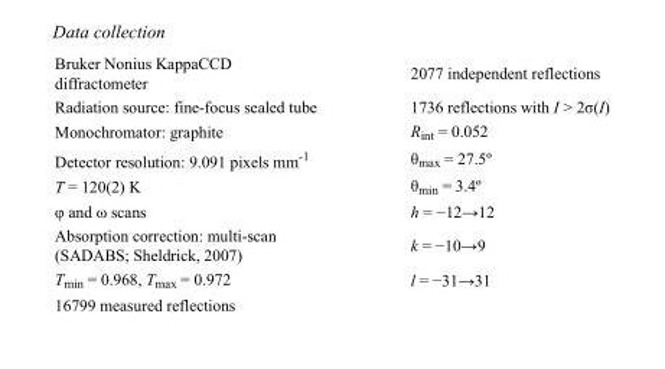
<table><tbody><tr><td>Bruker Nonius KappaCCD diffractometer</td><td>2077 independent reflections</td></tr><tr><td>Radiation source: fine-focus sealed tube</td><td>1736 reflections with I &gt; 2σ(I)</td></tr><tr><td>Monochromator: graphite</td><td>R<sub>int</sub> = 0.052</td></tr><tr><td>Detector resolution: 9.091 pixels mm<sup>-1</sup></td><td>θ<sub>max</sub> = 27.5º</td></tr><tr><td>T = 120(2) K</td><td>θ<sub>min</sub> = 3.4º</td></tr><tr><td>φ and ω scans</td><td>h = −12→12</td></tr><tr><td>Absorption correction: multi-scan (SADABS; Sheldrick, 2007)</td><td>k = −10→9</td></tr><tr><td>T<sub>min</sub> = 0.968, T<sub>max</sub> = 0.972</td><td>l = −31→31</td></tr><tr><td>16799 measured reflections</td><td></td></tr></tbody></table>